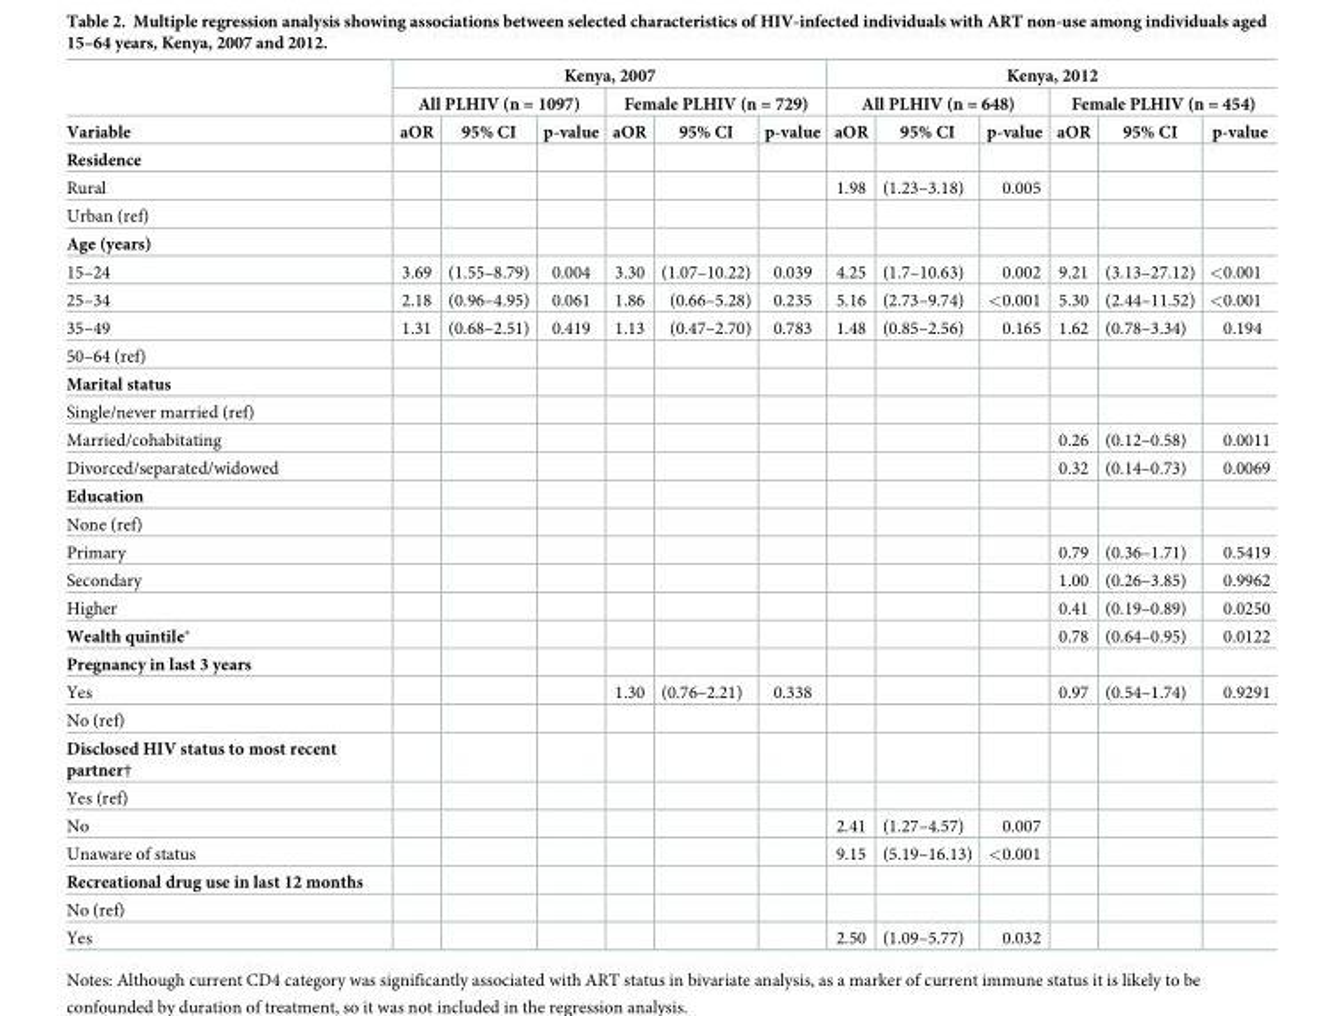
<table><thead><tr><td rowspan="3">Variable</td><td colspan="6">Kenya, 2007</td><td colspan="6">Kenya, 2012</td></tr><tr><td colspan="3">All PLHIV (n = 1097)</td><td colspan="3">Female PLHIV (n = 729)</td><td colspan="3">All PLHIV (n = 648)</td><td colspan="3">Female PLHIV (n = 454)</td></tr><tr><td>aOR</td><td>95% CI</td><td>p-value</td><td>aOR</td><td>95% CI</td><td>p-value</td><td>aOR</td><td>95% CI</td><td>p-value</td><td>aOR</td><td>95% CI</td><td>p-value</td></tr></thead><tbody><tr><td colspan="13">Residence</td></tr><tr><td>Rural</td><td></td><td></td><td></td><td></td><td></td><td></td><td>1.98</td><td>(1.23–3.18)</td><td>0.005</td><td></td><td></td><td></td></tr><tr><td colspan="13">Urban (ref)</td></tr><tr><td colspan="13">Age (years)</td></tr><tr><td>15–24</td><td>3.69</td><td>(1.55–8.79)</td><td>0.004</td><td>3.30</td><td>(1.07–10.22)</td><td>0.039</td><td>4.25</td><td>(1.7–10.63)</td><td>0.002</td><td>9.21</td><td>(3.13–27.12)</td><td>&lt;0.001</td></tr><tr><td>25–34</td><td>2.18</td><td>(0.96–4.95)</td><td>0.061</td><td>1.86</td><td>(0.66–5.28)</td><td>0.235</td><td>5.16</td><td>(2.73–9.74)</td><td>&lt;0.001</td><td>5.30</td><td>(2.44–11.52)</td><td>&lt;0.001</td></tr><tr><td>35–49</td><td>1.31</td><td>(0.68–2.51)</td><td>0.419</td><td>1.13</td><td>(0.47–2.70)</td><td>0.783</td><td>1.48</td><td>(0.85–2.56)</td><td>0.165</td><td>1.62</td><td>(0.78–3.34)</td><td>0.194</td></tr><tr><td colspan="13">50–64 (ref)</td></tr><tr><td colspan="13">Marital status</td></tr><tr><td colspan="13">Single/never married (ref)</td></tr><tr><td>Married/cohabitating</td><td></td><td></td><td></td><td></td><td></td><td></td><td></td><td></td><td></td><td>0.26</td><td>(0.12–0.58)</td><td>0.0011</td></tr><tr><td>Divorced/separated/widowed</td><td></td><td></td><td></td><td></td><td></td><td></td><td></td><td></td><td></td><td>0.32</td><td>(0.14–0.73)</td><td>0.0069</td></tr><tr><td colspan="13">Education</td></tr><tr><td colspan="13">None (ref)</td></tr><tr><td>Primary</td><td></td><td></td><td></td><td></td><td></td><td></td><td></td><td></td><td></td><td>0.79</td><td>(0.36–1.71)</td><td>0.5419</td></tr><tr><td>Secondary</td><td></td><td></td><td></td><td></td><td></td><td></td><td></td><td></td><td></td><td>1.00</td><td>(0.26–3.85)</td><td>0.9962</td></tr><tr><td>Higher</td><td></td><td></td><td></td><td></td><td></td><td></td><td></td><td></td><td></td><td>0.41</td><td>(0.19–0.89)</td><td>0.0250</td></tr><tr><td>Wealth quintile*</td><td></td><td></td><td></td><td></td><td></td><td></td><td></td><td></td><td></td><td>0.78</td><td>(0.64–0.95)</td><td>0.0122</td></tr><tr><td colspan="13">Pregnancy in last 3 years</td></tr><tr><td>Yes</td><td></td><td></td><td></td><td>1.30</td><td>(0.76–2.21)</td><td>0.338</td><td></td><td></td><td></td><td>0.97</td><td>(0.54–1.74)</td><td>0.9291</td></tr><tr><td colspan="13">No (ref)</td></tr><tr><td colspan="13">Disclosed HIV status to most recent partner†</td></tr><tr><td colspan="13">Yes (ref)</td></tr><tr><td>No</td><td></td><td></td><td></td><td></td><td></td><td></td><td>2.41</td><td>(1.27–4.57)</td><td>0.007</td><td></td><td></td><td></td></tr><tr><td>Unaware of status</td><td></td><td></td><td></td><td></td><td></td><td></td><td>9.15</td><td>(5.19–16.13)</td><td>&lt;0.001</td><td></td><td></td><td></td></tr><tr><td colspan="13">Recreational drug use in last 12 months</td></tr><tr><td colspan="13">No (ref)</td></tr><tr><td>Yes</td><td></td><td></td><td></td><td></td><td></td><td></td><td>2.50</td><td>(1.09–5.77)</td><td>0.032</td><td></td><td></td><td></td></tr></tbody></table>